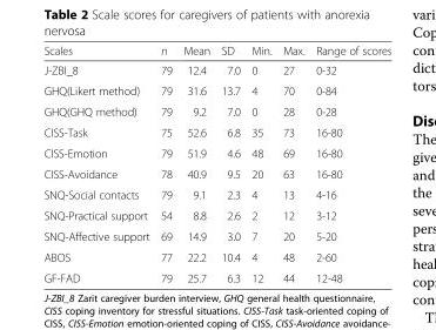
<table><thead><tr><td>Scales</td><td>n</td><td>Mean</td><td>SD</td><td>Min.</td><td>Max.</td><td>Range of scores</td></tr></thead><tbody><tr><td>J-ZBI_8</td><td>79</td><td>12.4</td><td>7.0</td><td>0</td><td>27</td><td>0-32</td></tr><tr><td>GHQ(Likert method)</td><td>79</td><td>31.6</td><td>13.7</td><td>4</td><td>70</td><td>0-84</td></tr><tr><td>GHQ(GHQ method)</td><td>79</td><td>9.2</td><td>7.0</td><td>0</td><td>28</td><td>0-28</td></tr><tr><td>CISS-Task</td><td>75</td><td>52.6</td><td>6.8</td><td>35</td><td>73</td><td>16-80</td></tr><tr><td>CISS-Emotion</td><td>79</td><td>51.9</td><td>4.6</td><td>48</td><td>69</td><td>16-80</td></tr><tr><td>CISS-Avoidance</td><td>78</td><td>40.9</td><td>9.5</td><td>20</td><td>63</td><td>16-80</td></tr><tr><td>SNQ-Social contacts</td><td>79</td><td>9.1</td><td>2.3</td><td>4</td><td>13</td><td>4-16</td></tr><tr><td>SNQ-Practical support</td><td>54</td><td>8.8</td><td>2.6</td><td>2</td><td>12</td><td>3-12</td></tr><tr><td>SNQ-Affective support</td><td>69</td><td>14.9</td><td>3.0</td><td>7</td><td>20</td><td>5-20</td></tr><tr><td>ABOS</td><td>77</td><td>22.2</td><td>10.4</td><td>4</td><td>48</td><td>2-60</td></tr><tr><td>GF-FAD</td><td>79</td><td>25.7</td><td>6.3</td><td>12</td><td>44</td><td>12-48</td></tr></tbody></table>